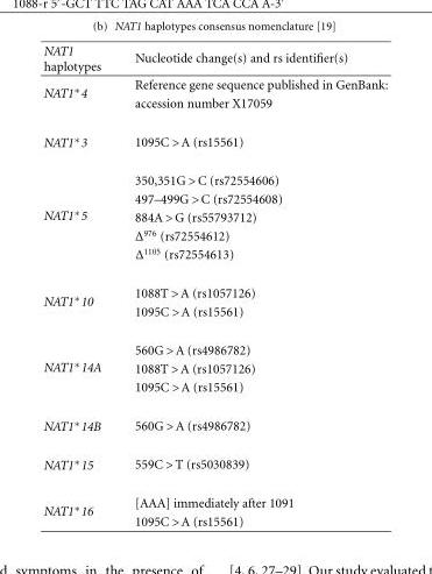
<table><thead><tr><td>NAT1 haplotypes</td><td>Nucleotide change(s) and rs identifier(s)</td></tr></thead><tbody><tr><td rowspan="2">NAT1∗4</td><td>Reference gene sequence published in GenBank:</td></tr><tr><td>accession number X17059</td></tr><tr><td>NAT1∗3</td><td>1095C &gt; A (rs15561)</td></tr><tr><td rowspan="5">NAT1∗5</td><td>350,351G &gt; C (rs72554606)</td></tr><tr><td>497–499G &gt; C (rs72554608)</td></tr><tr><td>884A &gt; G (rs55793712)</td></tr><tr><td>Δ<sup>976</sup> (rs72554612)</td></tr><tr><td>Δ<sup>1105</sup> (rs72554613)</td></tr><tr><td rowspan="2">NAT1∗10</td><td>1088T &gt; A (rs1057126)</td></tr><tr><td>1095C &gt; A (rs15561)</td></tr><tr><td rowspan="3">NAT1∗14A</td><td>560G &gt; A (rs4986782)</td></tr><tr><td>1088T &gt; A (rs1057126)</td></tr><tr><td>1095C &gt; A (rs15561)</td></tr><tr><td>NAT1∗14B</td><td>560G &gt; A (rs4986782)</td></tr><tr><td>NAT1∗15</td><td>559C &gt; T (rs5030839)</td></tr><tr><td rowspan="2">NAT1∗16</td><td>[AAA] immediately after 1091</td></tr><tr><td>1095C &gt; A (rs15561)</td></tr></tbody></table>